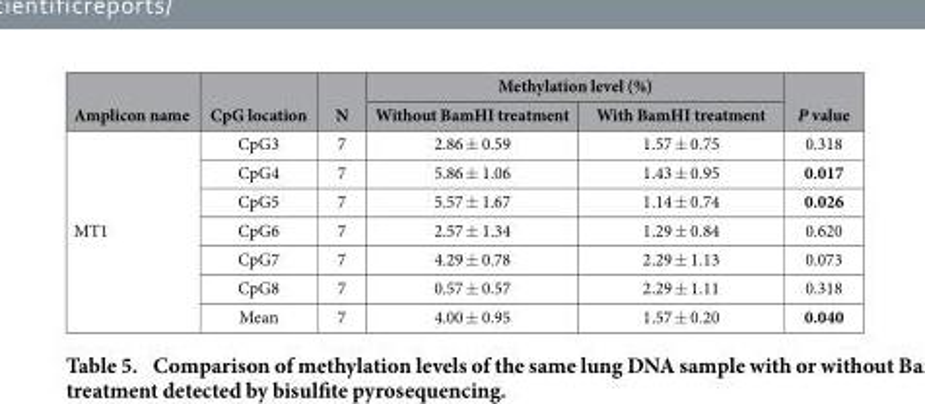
<table><thead><tr><td rowspan="2">Amplicon name</td><td rowspan="2">CpG location</td><td rowspan="2">N</td><td colspan="2">Methylation level (%)</td><td rowspan="2">P value</td></tr><tr><td>Without BamHI treatment</td><td>With BamHI treatment</td></tr></thead><tbody><tr><td rowspan="7">MT1</td><td>CpG3</td><td>7</td><td>2.86 ± 0.59</td><td>1.57 ± 0.75</td><td>0.318</td></tr><tr><td>CpG4</td><td>7</td><td>5.86 ± 1.06</td><td>1.43 ± 0.95</td><td>0.017</td></tr><tr><td>CpG5</td><td>7</td><td>5.57 ± 1.67</td><td>1.14 ± 0.74</td><td>0.026</td></tr><tr><td>CpG6</td><td>7</td><td>2.57 ± 1.34</td><td>1.29 ± 0.84</td><td>0.620</td></tr><tr><td>CpG7</td><td>7</td><td>4.29 ± 0.78</td><td>2.29 ± 1.13</td><td>0.073</td></tr><tr><td>CpG8</td><td>7</td><td>0.57 ± 0.57</td><td>2.29 ± 1.11</td><td>0.318</td></tr><tr><td>Mean</td><td>7</td><td>4.00 ± 0.95</td><td>1.57 ± 0.20</td><td>0.040</td></tr></tbody></table>